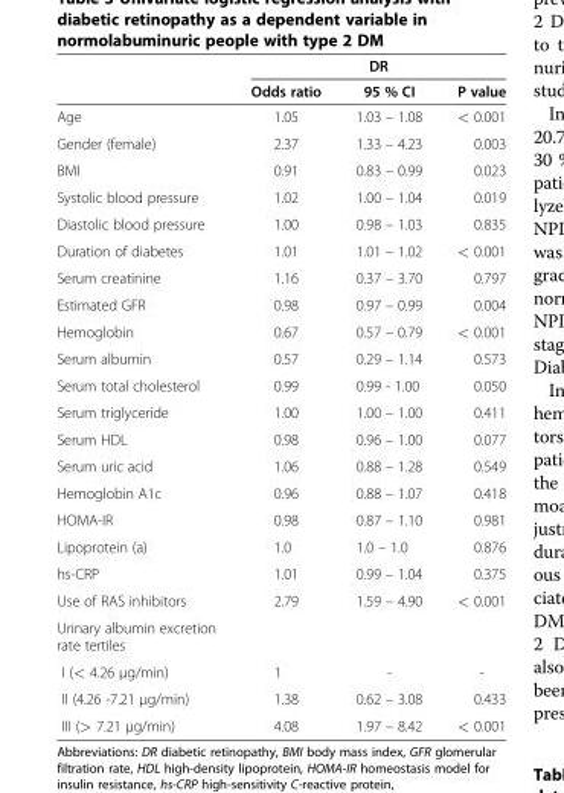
<table><thead><tr><td rowspan="2"></td><td colspan="3">DR</td></tr><tr><td>Odds ratio</td><td>95 % CI</td><td>P value</td></tr></thead><tbody><tr><td>Age</td><td>1.05</td><td>1.03 – 1.08</td><td>&lt; 0.001</td></tr><tr><td>Gender (female)</td><td>2.37</td><td>1.33 – 4.23</td><td>0.003</td></tr><tr><td>BMI</td><td>0.91</td><td>0.83 – 0.99</td><td>0.023</td></tr><tr><td>Systolic blood pressure</td><td>1.02</td><td>1.00 – 1.04</td><td>0.019</td></tr><tr><td>Diastolic blood pressure</td><td>1.00</td><td>0.98 – 1.03</td><td>0.835</td></tr><tr><td>Duration of diabetes</td><td>1.01</td><td>1.01 – 1.02</td><td>&lt; 0.001</td></tr><tr><td>Serum creatinine</td><td>1.16</td><td>0.37 – 3.70</td><td>0.797</td></tr><tr><td>Estimated GFR</td><td>0.98</td><td>0.97 – 0.99</td><td>0.004</td></tr><tr><td>Hemoglobin</td><td>0.67</td><td>0.57 – 0.79</td><td>&lt; 0.001</td></tr><tr><td>Serum albumin</td><td>0.57</td><td>0.29 – 1.14</td><td>0.573</td></tr><tr><td>Serum total cholesterol</td><td>0.99</td><td>0.99 - 1.00</td><td>0.050</td></tr><tr><td>Serum triglyceride</td><td>1.00</td><td>1.00 – 1.00</td><td>0.411</td></tr><tr><td>Serum HDL</td><td>0.98</td><td>0.96 – 1.00</td><td>0.077</td></tr><tr><td>Serum uric acid</td><td>1.06</td><td>0.88 – 1.28</td><td>0.549</td></tr><tr><td>Hemoglobin A1c</td><td>0.96</td><td>0.88 – 1.07</td><td>0.418</td></tr><tr><td>HOMA-IR</td><td>0.98</td><td>0.87 – 1.10</td><td>0.981</td></tr><tr><td>Lipoprotein (a)</td><td>1.0</td><td>1.0 – 1.0</td><td>0.876</td></tr><tr><td>hs-CRP</td><td>1.01</td><td>0.99 – 1.04</td><td>0.375</td></tr><tr><td>Use of RAS inhibitors</td><td>2.79</td><td>1.59 – 4.90</td><td>&lt; 0.001</td></tr><tr><td colspan="4">Urinary albumin excretion rate tertiles</td></tr><tr><td>I (&lt; 4.26 μg/min)</td><td>1</td><td>-</td><td>-</td></tr><tr><td>II (4.26 -7.21 μg/min)</td><td>1.38</td><td>0.62 – 3.08</td><td>0.433</td></tr><tr><td>III (&gt; 7.21 μg/min)</td><td>4.08</td><td>1.97 – 8.42</td><td>&lt; 0.001</td></tr></tbody></table>